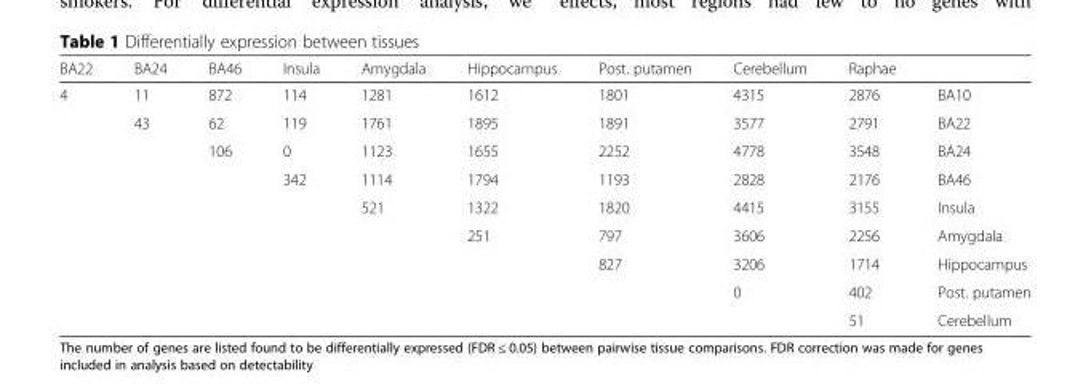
<table><thead><tr><td>BA22</td><td>BA24</td><td>BA46</td><td>Insula</td><td>Amygdala</td><td>Hippocampus</td><td>Post. putamen</td><td>Cerebellum</td><td>Raphae</td><td></td></tr></thead><tbody><tr><td rowspan="9">4</td><td>11</td><td>872</td><td>114</td><td>1281</td><td>1612</td><td>1801</td><td>4315</td><td>2876</td><td>BA10</td></tr><tr><td>43</td><td>62</td><td>119</td><td>1761</td><td>1895</td><td>1891</td><td>3577</td><td>2791</td><td>BA22</td></tr><tr><td></td><td>106</td><td>0</td><td>1123</td><td>1655</td><td>2252</td><td>4778</td><td>3548</td><td>BA24</td></tr><tr><td></td><td></td><td>342</td><td>1114</td><td>1794</td><td>1193</td><td>2828</td><td>2176</td><td>BA46</td></tr><tr><td></td><td></td><td></td><td>521</td><td>1322</td><td>1820</td><td>4415</td><td>3155</td><td>Insula</td></tr><tr><td></td><td></td><td></td><td></td><td>251</td><td>797</td><td>3606</td><td>2256</td><td>Amygdala</td></tr><tr><td></td><td></td><td></td><td></td><td></td><td>827</td><td>3206</td><td>1714</td><td>Hippocampus</td></tr><tr><td></td><td></td><td></td><td></td><td></td><td></td><td>0</td><td>402</td><td>Post. putamen</td></tr><tr><td></td><td></td><td></td><td></td><td></td><td></td><td></td><td>51</td><td>Cerebellum</td></tr></tbody></table>